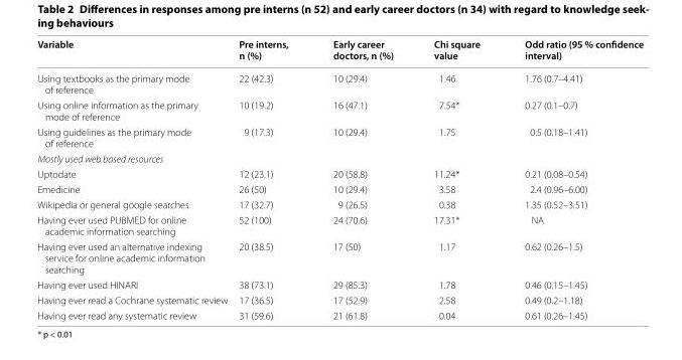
<table><thead><tr><td>Variable</td><td>Pre interns, n (%)</td><td>Early career doctors, n (%)</td><td>Chi square value</td><td>Odd ratio (95 % confidence interval)</td></tr></thead><tbody><tr><td>Using textbooks as the primary mode of reference</td><td>22 (42.3)</td><td>10 (29.4)</td><td>1.46</td><td>1.76 (0.7–4.41)</td></tr><tr><td>Using online information as the primary mode of reference</td><td>10 (19.2)</td><td>16 (47.1)</td><td>7.54*</td><td>0.27 (0.1–0.7)</td></tr><tr><td>Using guidelines as the primary mode of reference</td><td>9 (17.3)</td><td>10 (29.4)</td><td>1.75</td><td>0.5 (0.18–1.41)</td></tr><tr><td colspan="5">Mostly used web based resources</td></tr><tr><td>Uptodate</td><td>12 (23.1)</td><td>20 (58.8)</td><td>11.24*</td><td>0.21 (0.08–0.54)</td></tr><tr><td>Emedicine</td><td>26 (50)</td><td>10 (29.4)</td><td>3.58</td><td>2.4 (0.96–6.00)</td></tr><tr><td>Wikipedia or general google searches</td><td>17 (32.7)</td><td>9 (26.5)</td><td>0.38</td><td>1.35 (0.52–3.51)</td></tr><tr><td>Having ever used PUBMED for online academic information searching</td><td>52 (100)</td><td>24 (70.6)</td><td>17.31*</td><td>NA</td></tr><tr><td>Having ever used an alternative indexing service for online academic information searching</td><td>20 (38.5)</td><td>17 (50)</td><td>1.17</td><td>0.62 (0.26–1.5)</td></tr><tr><td>Having ever used HINARI</td><td>38 (73.1)</td><td>29 (85.3)</td><td>1.78</td><td>0.46 (0.15–1.45)</td></tr><tr><td>Having ever read a Cochrane systematic review</td><td>17 (36.5)</td><td>17 (52.9)</td><td>2.58</td><td>0.49 (0.2–1.18)</td></tr><tr><td>Having ever read any systematic review</td><td>31 (59.6)</td><td>21 (61.8)</td><td>0.04</td><td>0.61 (0.26–1.45)</td></tr></tbody></table>